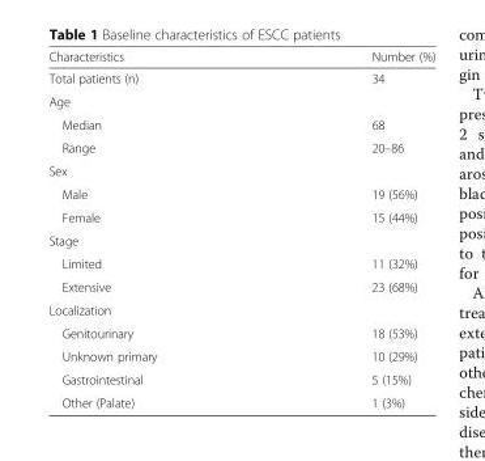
<table><thead><tr><td>Characteristics</td><td>Number (%)</td></tr></thead><tbody><tr><td>Total patients (n)</td><td>34</td></tr><tr><td colspan="2">Age</td></tr><tr><td>Median</td><td>68</td></tr><tr><td>Range</td><td>20–86</td></tr><tr><td colspan="2">Sex</td></tr><tr><td>Male</td><td>19 (56%)</td></tr><tr><td>Female</td><td>15 (44%)</td></tr><tr><td colspan="2">Stage</td></tr><tr><td>Limited</td><td>11 (32%)</td></tr><tr><td>Extensive</td><td>23 (68%)</td></tr><tr><td colspan="2">Localization</td></tr><tr><td>Genitourinary</td><td>18 (53%)</td></tr><tr><td>Unknown primary</td><td>10 (29%)</td></tr><tr><td>Gastrointestinal</td><td>5 (15%)</td></tr><tr><td>Other (Palate)</td><td>1 (3%)</td></tr></tbody></table>